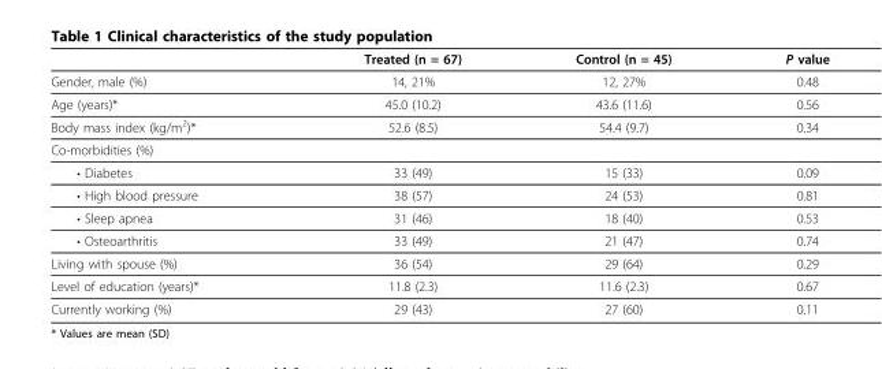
<table><thead><tr><td></td><td>Treated (n = 67)</td><td>Control (n = 45)</td><td>P value</td></tr></thead><tbody><tr><td>Gender, male (%)</td><td>14, 21%</td><td>12, 27%</td><td>0.48</td></tr><tr><td>Age (years)*</td><td>45.0 (10.2)</td><td>43.6 (11.6)</td><td>0.56</td></tr><tr><td>Body mass index (kg/m<sup>2</sup>)*</td><td>52.6 (8.5)</td><td>54.4 (9.7)</td><td>0.34</td></tr><tr><td colspan="4">Co-morbidities (%)</td></tr><tr><td>• Diabetes</td><td>33 (49)</td><td>15 (33)</td><td>0.09</td></tr><tr><td>• High blood pressure</td><td>38 (57)</td><td>24 (53)</td><td>0.81</td></tr><tr><td>• Sleep apnea</td><td>31 (46)</td><td>18 (40)</td><td>0.53</td></tr><tr><td>• Osteoarthritis</td><td>33 (49)</td><td>21 (47)</td><td>0.74</td></tr><tr><td>Living with spouse (%)</td><td>36 (54)</td><td>29 (64)</td><td>0.29</td></tr><tr><td>Level of education (years)*</td><td>11.8 (2.3)</td><td>11.6 (2.3)</td><td>0.67</td></tr><tr><td>Currently working (%)</td><td>29 (43)</td><td>27 (60)</td><td>0.11</td></tr></tbody></table>